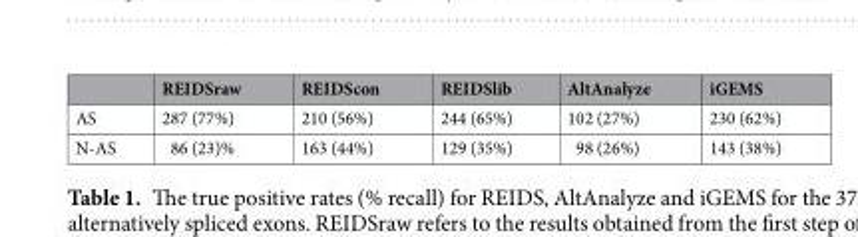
<table><thead><tr><td></td><td>REIDSraw</td><td>REIDScon</td><td>REIDSlib</td><td>AltAnalyze</td><td>iGEMS</td></tr></thead><tbody><tr><td>AS</td><td>287 (77%)</td><td>210 (56%)</td><td>244 (65%)</td><td>102 (27%)</td><td>230 (62%)</td></tr><tr><td>N-AS</td><td>86 (23)%</td><td>163 (44%)</td><td>129 (35%)</td><td>98 (26%)</td><td>143 (38%)</td></tr></tbody></table>